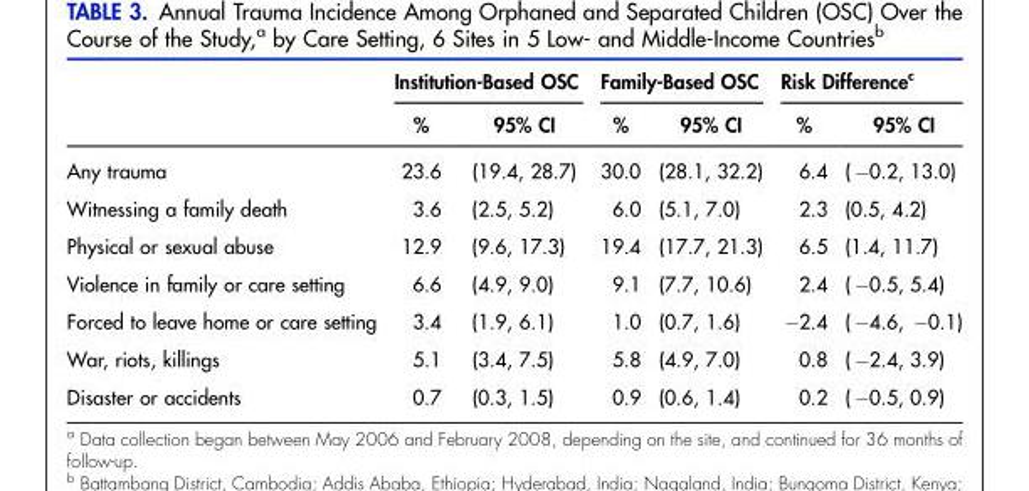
<table><thead><tr><td rowspan="2"></td><td colspan="2">Institution-Based OSC</td><td colspan="2">Family-Based OSC</td><td colspan="2">Risk Difference<sup>c</sup></td></tr><tr><td>%</td><td>95% CI</td><td>%</td><td>95% CI</td><td>%</td><td>95% CI</td></tr></thead><tbody><tr><td>Any trauma</td><td>23.6</td><td>(19.4, 28.7)</td><td>30.0</td><td>(28.1, 32.2)</td><td>6.4</td><td>( −0.2, 13.0)</td></tr><tr><td>Witnessing a family death</td><td>3.6</td><td>(2.5, 5.2)</td><td>6.0</td><td>(5.1, 7.0)</td><td>2.3</td><td>(0.5, 4.2)</td></tr><tr><td>Physical or sexual abuse</td><td>12.9</td><td>(9.6, 17.3)</td><td>19.4</td><td>(17.7, 21.3)</td><td>6.5</td><td>(1.4, 11.7)</td></tr><tr><td>Violence in family or care setting</td><td>6.6</td><td>(4.9, 9.0)</td><td>9.1</td><td>(7.7, 10.6)</td><td>2.4</td><td>( −0.5, 5.4)</td></tr><tr><td>Forced to leave home or care setting</td><td>3.4</td><td>(1.9, 6.1)</td><td>1.0</td><td>(0.7, 1.6)</td><td>−2.4</td><td>( −4.6, −0.1)</td></tr><tr><td>War, riots, killings</td><td>5.1</td><td>(3.4, 7.5)</td><td>5.8</td><td>(4.9, 7.0)</td><td>0.8</td><td>( −2.4, 3.9)</td></tr><tr><td>Disaster or accidents</td><td>0.7</td><td>(0.3, 1.5)</td><td>0.9</td><td>(0.6, 1.4)</td><td>0.2</td><td>( −0.5, 0.9)</td></tr></tbody></table>